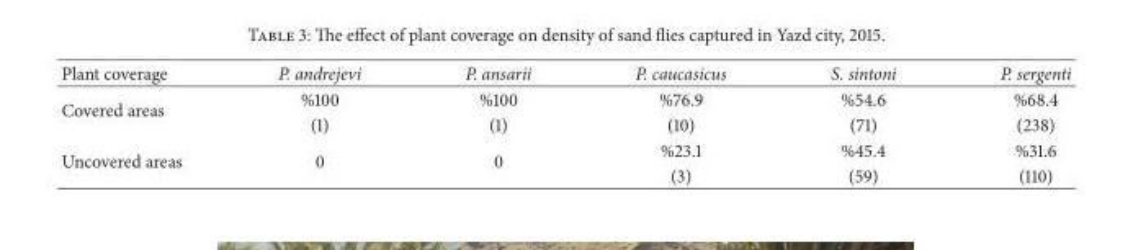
<table><thead><tr><td>Plant coverage</td><td>P. andrejevi</td><td>P. ansarii</td><td>P. caucasicus</td><td>S. sintoni</td><td>P. sergenti</td></tr></thead><tbody><tr><td rowspan="2">Covered areas</td><td>%100</td><td>%100</td><td>%76.9</td><td>%54.6</td><td>%68.4</td></tr><tr><td>(1)</td><td>(1)</td><td>(10)</td><td>(71)</td><td>(238)</td></tr><tr><td rowspan="2">Uncovered areas</td><td rowspan="2">0</td><td rowspan="2">0</td><td>%23.1</td><td>%45.4</td><td>%31.6</td></tr><tr><td>(3)</td><td>(59)</td><td>(110)</td></tr></tbody></table>